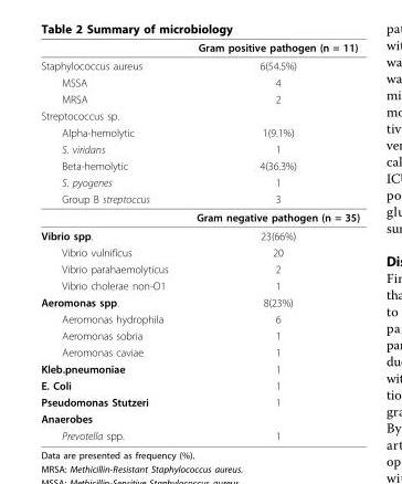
<table><thead><tr><td></td><td>Gram positive pathogen (n = 11)</td></tr></thead><tbody><tr><td>Staphylococcus aureus</td><td>6(54.5%)</td></tr><tr><td>MSSA</td><td>4</td></tr><tr><td>MRSA</td><td>2</td></tr><tr><td colspan="2">Streptococcus sp.</td></tr><tr><td>Alpha-hemolytic</td><td>1(9.1%)</td></tr><tr><td>S. viridans</td><td>1</td></tr><tr><td>Beta-hemolytic</td><td>4(36.3%)</td></tr><tr><td>S. pyogenes</td><td>1</td></tr><tr><td rowspan="2">Group B streptoccus</td><td>3</td></tr><tr><td>Gram negative pathogen (n = 35)</td></tr><tr><td>Vibrio spp.</td><td>23(66%)</td></tr><tr><td>Vibrio vulnificus</td><td>20</td></tr><tr><td>Vibrio parahaemolyticus</td><td>2</td></tr><tr><td>Vibrio cholerae non-O1</td><td>1</td></tr><tr><td>Aeromonas spp.</td><td>8(23%)</td></tr><tr><td>Aeromonas hydrophila</td><td>6</td></tr><tr><td>Aeromonas sobria</td><td>1</td></tr><tr><td>Aeromonas caviae</td><td>1</td></tr><tr><td>Kleb.pneumoniae</td><td>1</td></tr><tr><td>E. Coli</td><td>1</td></tr><tr><td>Pseudomonas Stutzeri</td><td>1</td></tr><tr><td colspan="2">Anaerobes</td></tr><tr><td>Prevotella spp.</td><td>1</td></tr></tbody></table>